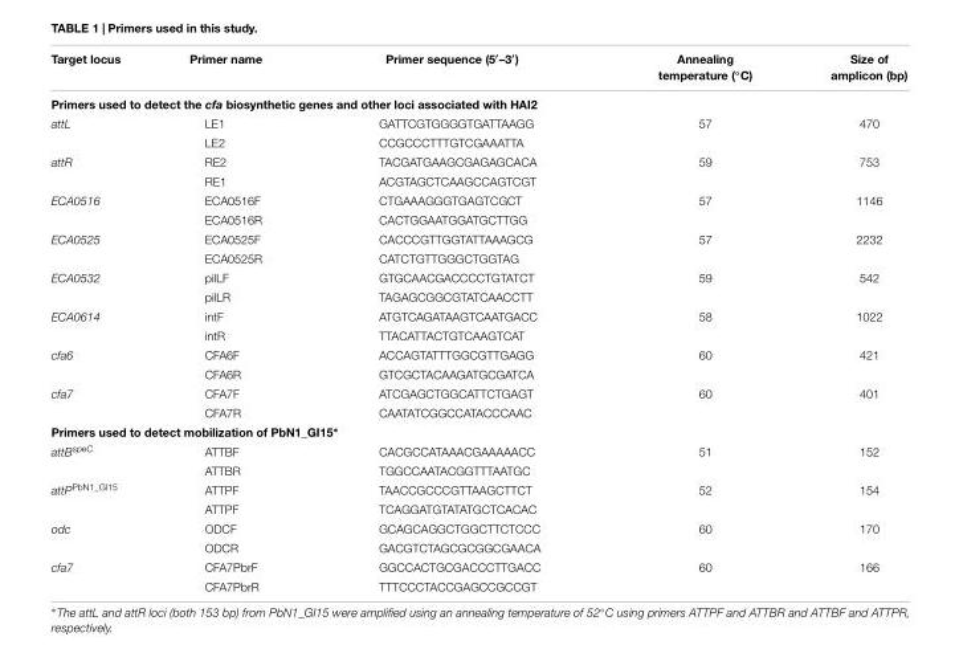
<table><thead><tr><td>Target locus</td><td>Primer name</td><td>Primer sequence (5′–3′)</td><td>Annealing temperature (◦C)</td><td>Size of amplicon (bp)</td></tr></thead><tbody><tr><td colspan="5">Primers used to detect the cfa biosynthetic genes and other loci associated with HAI2</td></tr><tr><td rowspan="2">attL</td><td>LE1</td><td>GATTCGTGGGGTGATTAAGG</td><td>57</td><td>470</td></tr><tr><td>LE2</td><td>CCGCCCTTTGTCGAAATTA</td><td></td><td></td></tr><tr><td rowspan="2">attR</td><td>RE2</td><td>TACGATGAAGCGAGAGCACA</td><td>59</td><td>753</td></tr><tr><td>RE1</td><td>ACGTAGCTCAAGCCAGTCGT</td><td></td><td></td></tr><tr><td rowspan="2">ECA0516</td><td>ECA0516F</td><td>CTGAAAGGGTGAGTCGCT</td><td>57</td><td>1146</td></tr><tr><td>ECA0516R</td><td>CACTGGAATGGATGCTTGG</td><td></td><td></td></tr><tr><td rowspan="2">ECA0525</td><td>ECA0525F</td><td>CACCCGTTGGTATTAAAGCG</td><td>57</td><td>2232</td></tr><tr><td>ECA0525R</td><td>CATCTGTTGGGCTGGTAG</td><td></td><td></td></tr><tr><td rowspan="2">ECA0532</td><td>pilLF</td><td>GTGCAACGACCCCTGTATCT</td><td>59</td><td>542</td></tr><tr><td>pilLR</td><td>TAGAGCGGCGTATCAACCTT</td><td></td><td></td></tr><tr><td rowspan="2">ECA0614</td><td>intF</td><td>ATGTCAGATAAGTCAATGACC</td><td>58</td><td>1022</td></tr><tr><td>intR</td><td>TTACATTACTGTCAAGTCAT</td><td></td><td></td></tr><tr><td rowspan="2">cfa6</td><td>CFA6F</td><td>ACCAGTATTTGGCGTTGAGG</td><td>60</td><td>421</td></tr><tr><td>CFA6R</td><td>GTCGCTACAAGATGCGATCA</td><td></td><td></td></tr><tr><td rowspan="2">cfa7</td><td>CFA7F</td><td>ATCGAGCTGGCATTCTGAGT</td><td>60</td><td>401</td></tr><tr><td>CFA7R</td><td>CAATATCGGCCATACCCAAC</td><td></td><td></td></tr><tr><td colspan="5">Primers used to detect mobilization of PbN1_GI15∗</td></tr><tr><td rowspan="2">attB<sup>speC</sup></td><td>ATTBF</td><td>CACGCCATAAACGAAAAACC</td><td>51</td><td>152</td></tr><tr><td>ATTBR</td><td>TGGCCAATACGGTTTAATGC</td><td></td><td></td></tr><tr><td rowspan="2">attP<sup>PbN1_GI15</sup></td><td>ATTPF</td><td>TAACCGCCCGTTAAGCTTCT</td><td>52</td><td>154</td></tr><tr><td>ATTPF</td><td>TCAGGATGTATATGCTCACAC</td><td></td><td></td></tr><tr><td rowspan="2">odc</td><td>ODCF</td><td>GCAGCAGGCTGGCTTCTCCC</td><td>60</td><td>170</td></tr><tr><td>ODCR</td><td>GACGTCTAGCGCGGCGAACA</td><td></td><td></td></tr><tr><td rowspan="2">cfa7</td><td>CFA7PbrF</td><td>GGCCACTGCGACCCTTGACC</td><td>60</td><td>166</td></tr><tr><td>CFA7PbrR</td><td>TTTCCCTACCGAGCCGCCGT</td><td></td><td></td></tr></tbody></table>